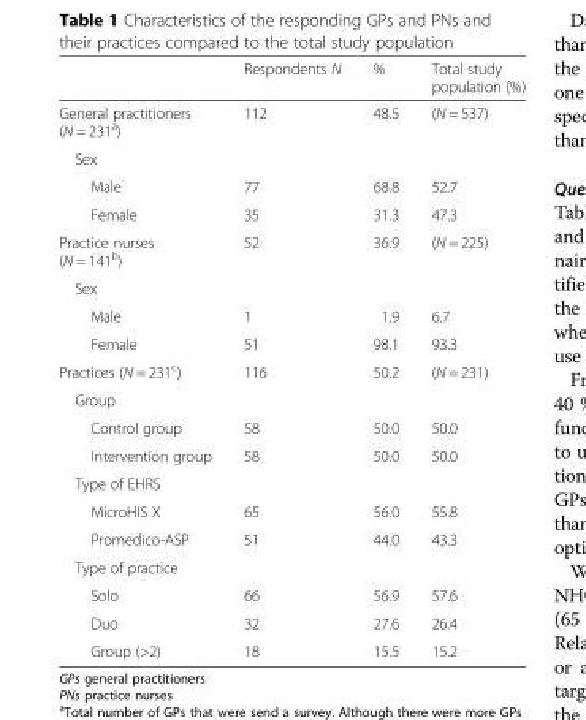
<table><thead><tr><td></td><td>Respondents N</td><td>%</td><td>Total study population (%)</td></tr></thead><tbody><tr><td>General practitioners (N = 231<sup>a</sup>)</td><td>112</td><td>48.5</td><td>(N = 537)</td></tr><tr><td colspan="4">Sex</td></tr><tr><td>Male</td><td>77</td><td>68.8</td><td>52.7</td></tr><tr><td>Female</td><td>35</td><td>31.3</td><td>47.3</td></tr><tr><td>Practice nurses (N = 141<sup>b</sup>)</td><td>52</td><td>36.9</td><td>(N = 225)</td></tr><tr><td colspan="4">Sex</td></tr><tr><td>Male</td><td>1</td><td>1.9</td><td>6.7</td></tr><tr><td>Female</td><td>51</td><td>98.1</td><td>93.3</td></tr><tr><td>Practices (N = 231<sup>c</sup>)</td><td>116</td><td>50.2</td><td>(N = 231)</td></tr><tr><td colspan="4">Group</td></tr><tr><td>Control group</td><td>58</td><td>50.0</td><td>50.0</td></tr><tr><td>Intervention group</td><td>58</td><td>50.0</td><td>50.0</td></tr><tr><td colspan="4">Type of EHRS</td></tr><tr><td>MicroHIS X</td><td>65</td><td>56.0</td><td>55.8</td></tr><tr><td>Promedico-ASP</td><td>51</td><td>44.0</td><td>43.3</td></tr><tr><td colspan="4">Type of practice</td></tr><tr><td>Solo</td><td>66</td><td>56.9</td><td>57.6</td></tr><tr><td>Duo</td><td>32</td><td>27.6</td><td>26.4</td></tr><tr><td>Group (&gt;2)</td><td>18</td><td>15.5</td><td>15.2</td></tr></tbody></table>